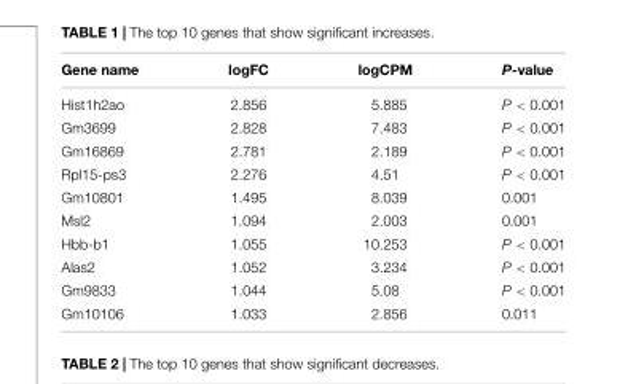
<table><thead><tr><td>Gene name</td><td>logFC</td><td>logCPM</td><td>P-value</td></tr></thead><tbody><tr><td>Hist1h2ao</td><td>2.856</td><td>5.885</td><td>P &lt; 0.001</td></tr><tr><td>Gm3699</td><td>2.828</td><td>7.483</td><td>P &lt; 0.001</td></tr><tr><td>Gm16869</td><td>2.781</td><td>2.189</td><td>P &lt; 0.001</td></tr><tr><td>Rpl15-ps3</td><td>2.276</td><td>4.51</td><td>P &lt; 0.001</td></tr><tr><td>Gm10801</td><td>1.495</td><td>8.039</td><td>0.001</td></tr><tr><td>Msl2</td><td>1.094</td><td>2.003</td><td>0.001</td></tr><tr><td>Hbb-b1</td><td>1.055</td><td>10.253</td><td>P &lt; 0.001</td></tr><tr><td>Alas2</td><td>1.052</td><td>3.234</td><td>P &lt; 0.001</td></tr><tr><td>Gm9833</td><td>1.044</td><td>5.08</td><td>P &lt; 0.001</td></tr><tr><td>Gm10106</td><td>1.033</td><td>2.856</td><td>0.011</td></tr></tbody></table>